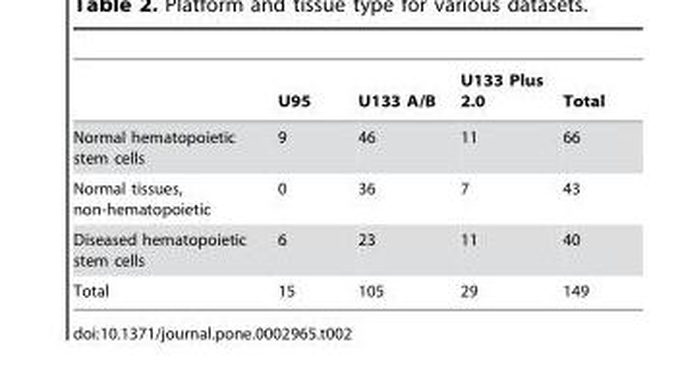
<table><thead><tr><td></td><td>U95</td><td>U133 A/B</td><td>U133 Plus 2.0</td><td>Total</td></tr></thead><tbody><tr><td>Normal hematopoietic stem cells</td><td>9</td><td>46</td><td>11</td><td>66</td></tr><tr><td>Normal tissues, non-hematopoietic</td><td>0</td><td>36</td><td>7</td><td>43</td></tr><tr><td>Diseased hematopoietic stem cells</td><td>6</td><td>23</td><td>11</td><td>40</td></tr><tr><td>Total</td><td>15</td><td>105</td><td>29</td><td>149</td></tr></tbody></table>